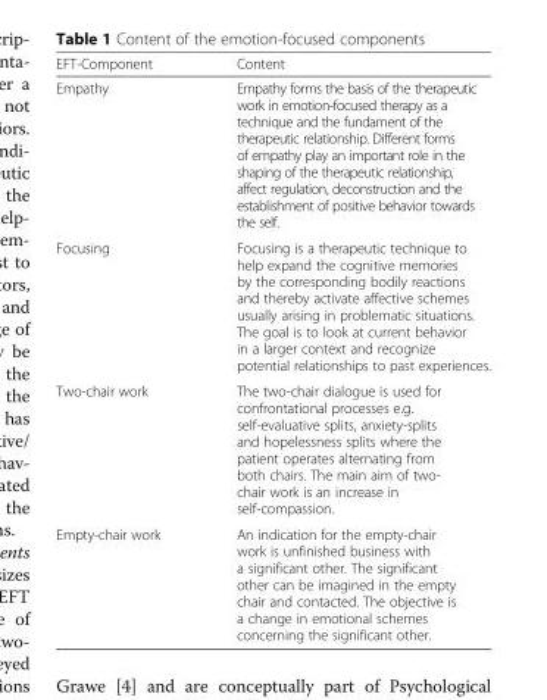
<table><thead><tr><td>EFT-Component</td><td>Content</td></tr></thead><tbody><tr><td>Empathy</td><td>Empathy forms the basis of the therapeutic work in emotion-focused therapy as a technique and the fundament of the therapeutic relationship. Different forms of empathy play an important role in the shaping of the therapeutic relationship, affect regulation, deconstruction and the establishment of positive behavior towards the self.</td></tr><tr><td>Focusing</td><td>Focusing is a therapeutic technique to help expand the cognitive memories by the corresponding bodily reactions and thereby activate affective schemes usually arising in problematic situations. The goal is to look at current behavior in a larger context and recognize potential relationships to past experiences.</td></tr><tr><td>Two-chair work</td><td>The two-chair dialogue is used for confrontational processes e.g. self-evaluative splits, anxiety-splits and hopelessness splits where the patient operates alternating from both chairs. The main aim of two- chair work is an increase in self-compassion.</td></tr><tr><td>Empty-chair work</td><td>An indication for the empty-chair work is unfinished business with a significant other. The significant other can be imagined in the empty chair and contacted. The objective is a change in emotional schemes concerning the significant other.</td></tr></tbody></table>